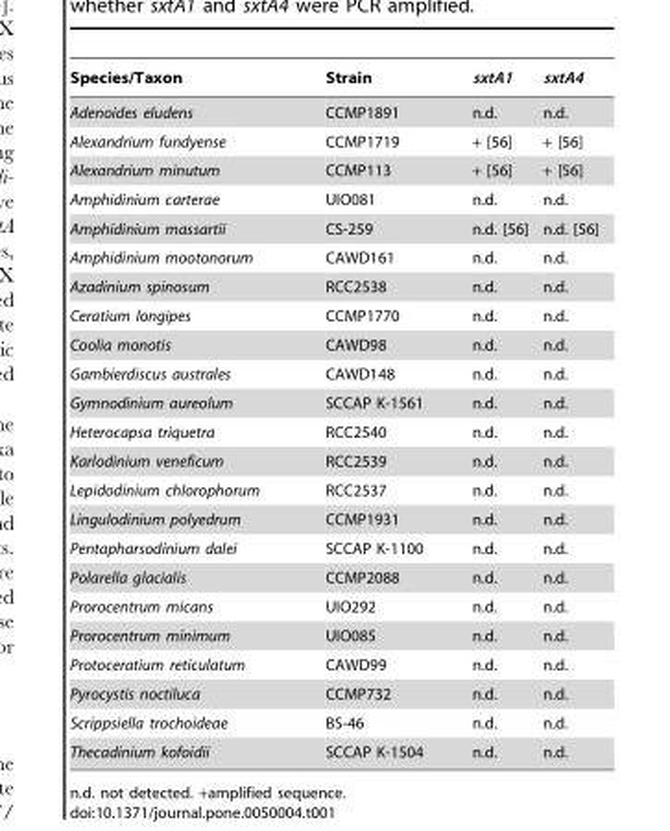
<table><thead><tr><td>Species/Taxon</td><td>Strain</td><td>sxtA1</td><td>sxtA4</td></tr></thead><tbody><tr><td>Adenoides eludens</td><td>CCMP1891</td><td>n.d.</td><td>n.d.</td></tr><tr><td>Alexandrium fundyense</td><td>CCMP1719</td><td>+ [56]</td><td>+ [56]</td></tr><tr><td>Alexandrium minutum</td><td>CCMP113</td><td>+ [56]</td><td>+ [56]</td></tr><tr><td>Amphidinium carterae</td><td>UIO081</td><td>n.d.</td><td>n.d.</td></tr><tr><td>Amphidinium massartii</td><td>CS-259</td><td>n.d. [56]</td><td>n.d. [56]</td></tr><tr><td>Amphidinium mootonorum</td><td>CAWD161</td><td>n.d.</td><td>n.d.</td></tr><tr><td>Azadinium spinosum</td><td>RCC2538</td><td>n.d.</td><td>n.d.</td></tr><tr><td>Ceratium longipes</td><td>CCMP1770</td><td>n.d.</td><td>n.d.</td></tr><tr><td>Coolia monotis</td><td>CAWD98</td><td>n.d.</td><td>n.d.</td></tr><tr><td>Gambierdiscus australes</td><td>CAWD148</td><td>n.d.</td><td>n.d.</td></tr><tr><td>Gymnodinium aureolum</td><td>SCCAP K-1561</td><td>n.d.</td><td>n.d.</td></tr><tr><td>Heterocapsa triquetra</td><td>RCC2540</td><td>n.d.</td><td>n.d.</td></tr><tr><td>Karlodinium veneficum</td><td>RCC2539</td><td>n.d.</td><td>n.d.</td></tr><tr><td>Lepidodinium chlorophorum</td><td>RCC2537</td><td>n.d.</td><td>n.d.</td></tr><tr><td>Lingulodinium polyedrum</td><td>CCMP1931</td><td>n.d.</td><td>n.d.</td></tr><tr><td>Pentapharsodinium dalei</td><td>SCCAP K-1100</td><td>n.d.</td><td>n.d.</td></tr><tr><td>Polarella glacialis</td><td>CCMP2088</td><td>n.d.</td><td>n.d.</td></tr><tr><td>Prorocentrum micans</td><td>UIO292</td><td>n.d.</td><td>n.d.</td></tr><tr><td>Prorocentrum minimum</td><td>UIO085</td><td>n.d.</td><td>n.d.</td></tr><tr><td>Protoceratium reticulatum</td><td>CAWD99</td><td>n.d.</td><td>n.d.</td></tr><tr><td>Pyrocystis noctiluca</td><td>CCMP732</td><td>n.d.</td><td>n.d.</td></tr><tr><td>Scrippsiella trochoideae</td><td>BS-46</td><td>n.d.</td><td>n.d.</td></tr><tr><td>Thecadinium kofoidii</td><td>SCCAP K-1504</td><td>n.d.</td><td>n.d.</td></tr></tbody></table>